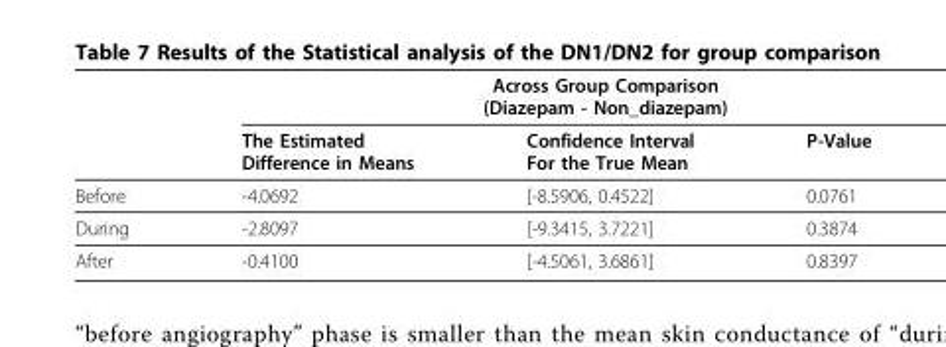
<table><thead><tr><td rowspan="2"></td><td colspan="3">Across Group Comparison (Diazepam - Non_diazepam)</td></tr><tr><td>The Estimated Difference in Means</td><td>Confidence Interval For the True Mean</td><td>P-Value</td></tr></thead><tbody><tr><td>Before</td><td>-4.0692</td><td>[-8.5906, 0.4522]</td><td>0.0761</td></tr><tr><td>During</td><td>-2.8097</td><td>[-9.3415, 3.7221]</td><td>0.3874</td></tr><tr><td>After</td><td>-0.4100</td><td>[-4.5061, 3.6861]</td><td>0.8397</td></tr></tbody></table>